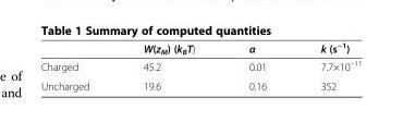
<table><thead><tr><td></td><td>W(z<sub>M</sub>) (k<sub>B</sub>T)</td><td>α</td><td>k (s<sup>−1</sup>)</td></tr></thead><tbody><tr><td>Charged</td><td>45.2</td><td>0.01</td><td>7.7×10<sup>–11</sup></td></tr><tr><td>Uncharged</td><td>19.6</td><td>0.16</td><td>352</td></tr></tbody></table>